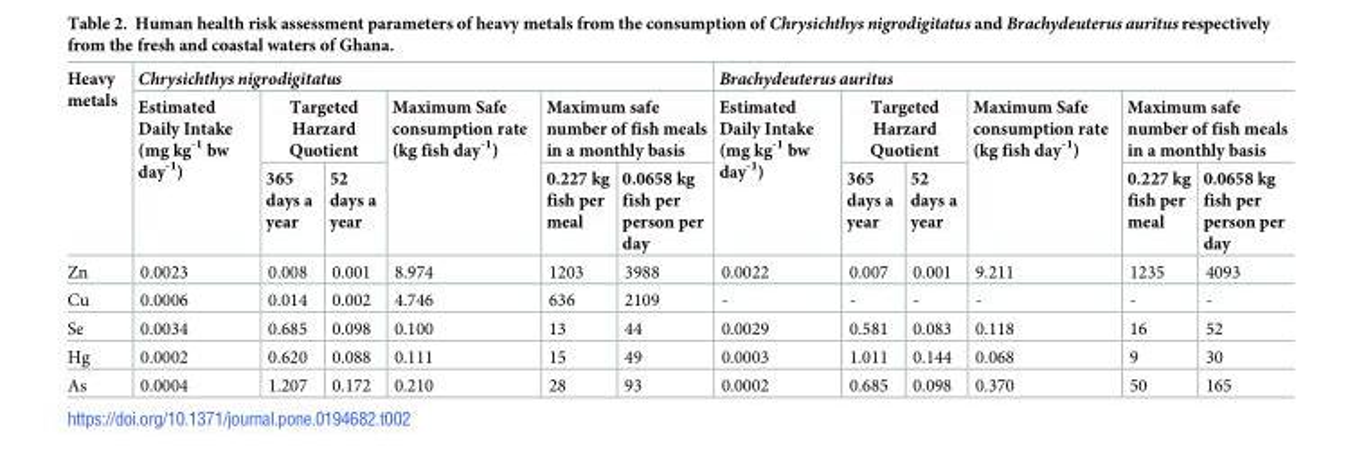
<table><thead><tr><td rowspan="3">Heavy metals</td><td colspan="6">Chrysichthys nigrodigitatus</td><td colspan="6">Brachydeuterus auritus</td></tr><tr><td rowspan="2">Estimated Daily Intake (mg kg<sup>-1</sup> bw day<sup>-1</sup>)</td><td colspan="2">Targeted Harzard Quotient</td><td rowspan="2">Maximum Safe consumption rate (kg fish day<sup>-1</sup>)</td><td colspan="2">Maximum safe number of fish meals in a monthly basis</td><td rowspan="2">Estimated Daily Intake (mg kg<sup>-1</sup> bw day<sup>-1</sup>)</td><td colspan="2">Targeted Harzard Quotient</td><td rowspan="2">Maximum Safe consumption rate (kg fish day<sup>-1</sup>)</td><td colspan="2">Maximum safe number of fish meals in a monthly basis</td></tr><tr><td>365 days a year</td><td>52 days a year</td><td>0.227 kg fish per meal</td><td>0.0658 kg fish per person per day</td><td>365 days a year</td><td>52 days a year</td><td>0.227 kg fish per meal</td><td>0.0658 kg fish per person per day</td></tr></thead><tbody><tr><td>Zn</td><td>0.0023</td><td>0.008</td><td>0.001</td><td>8.974</td><td>1203</td><td>3988</td><td>0.0022</td><td>0.007</td><td>0.001</td><td>9.211</td><td>1235</td><td>4093</td></tr><tr><td>Cu</td><td>0.0006</td><td>0.014</td><td>0.002</td><td>4.746</td><td>636</td><td>2109</td><td>-</td><td>-</td><td>-</td><td>-</td><td>-</td><td>-</td></tr><tr><td>Se</td><td>0.0034</td><td>0.685</td><td>0.098</td><td>0.100</td><td>13</td><td>44</td><td>0.0029</td><td>0.581</td><td>0.083</td><td>0.118</td><td>16</td><td>52</td></tr><tr><td>Hg</td><td>0.0002</td><td>0.620</td><td>0.088</td><td>0.111</td><td>15</td><td>49</td><td>0.0003</td><td>1.011</td><td>0.144</td><td>0.068</td><td>9</td><td>30</td></tr><tr><td>As</td><td>0.0004</td><td>1.207</td><td>0.172</td><td>0.210</td><td>28</td><td>93</td><td>0.0002</td><td>0.685</td><td>0.098</td><td>0.370</td><td>50</td><td>165</td></tr></tbody></table>